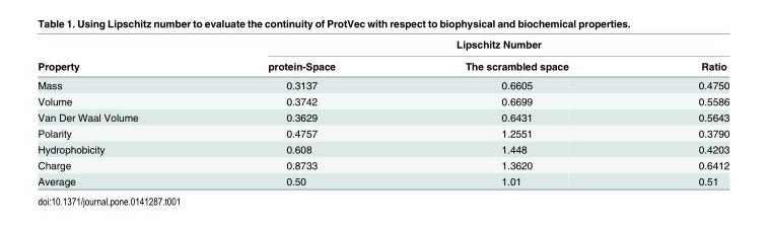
<table><thead><tr><td rowspan="2">Property</td><td colspan="3">Lipschitz Number</td></tr><tr><td>protein-Space</td><td>The scrambled space</td><td>Ratio</td></tr></thead><tbody><tr><td>Mass</td><td>0.3137</td><td>0.6605</td><td>0.4750</td></tr><tr><td>Volume</td><td>0.3742</td><td>0.6699</td><td>0.5586</td></tr><tr><td>Van Der Waal Volume</td><td>0.3629</td><td>0.6431</td><td>0.5643</td></tr><tr><td>Polarity</td><td>0.4757</td><td>1.2551</td><td>0.3790</td></tr><tr><td>Hydrophobicity</td><td>0.608</td><td>1.448</td><td>0.4203</td></tr><tr><td>Charge</td><td>0.8733</td><td>1.3620</td><td>0.6412</td></tr><tr><td>Average</td><td>0.50</td><td>1.01</td><td>0.51</td></tr></tbody></table>